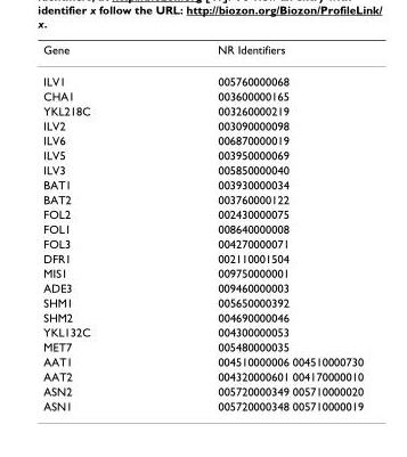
<table><thead><tr><td>Gene</td><td>NR Identifiers</td></tr></thead><tbody><tr><td>ILV1</td><td>005760000068</td></tr><tr><td>CHA1</td><td>003600000165</td></tr><tr><td>YKL218C</td><td>003260000219</td></tr><tr><td>ILV2</td><td>003090000098</td></tr><tr><td>ILV6</td><td>006870000019</td></tr><tr><td>ILV5</td><td>003950000069</td></tr><tr><td>ILV3</td><td>005850000040</td></tr><tr><td>BAT1</td><td>003930000034</td></tr><tr><td>BAT2</td><td>003760000122</td></tr><tr><td>FOL2</td><td>002430000075</td></tr><tr><td>FOL1</td><td>008640000008</td></tr><tr><td>FOL3</td><td>004270000071</td></tr><tr><td>DFR1</td><td>002110001504</td></tr><tr><td>MIS1</td><td>009750000001</td></tr><tr><td>ADE3</td><td>009460000003</td></tr><tr><td>SHM1</td><td>005650000392</td></tr><tr><td>SHM2</td><td>004690000046</td></tr><tr><td>YKL132C</td><td>004300000053</td></tr><tr><td>MET7</td><td>005480000035</td></tr><tr><td>AAT1</td><td>004510000006 004510000730</td></tr><tr><td>AAT2</td><td>004320000601 004170000010</td></tr><tr><td>ASN2</td><td>005720000349 005710000020</td></tr><tr><td>ASN1</td><td>005720000348 005710000019</td></tr></tbody></table>